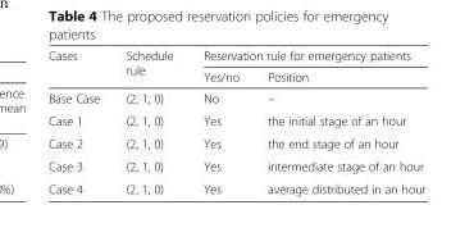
<table><thead><tr><td rowspan="2">Cases</td><td rowspan="2">Schedule rule</td><td colspan="2">Reservation rule for emergency patients</td></tr><tr><td>Yes/no</td><td>Position</td></tr></thead><tbody><tr><td>Base Case</td><td>(2, 1, 0)</td><td>No</td><td>–</td></tr><tr><td>Case 1</td><td>(2, 1, 0)</td><td>Yes</td><td>the initial stage of an hour</td></tr><tr><td>Case 2</td><td>(2, 1, 0)</td><td>Yes</td><td>the end stage of an hour</td></tr><tr><td>Case 3</td><td>(2, 1, 0)</td><td>Yes</td><td>intermediate stage of an hour</td></tr><tr><td>Case 4</td><td>(2, 1, 0)</td><td>Yes</td><td>average distributed in an hour</td></tr></tbody></table>